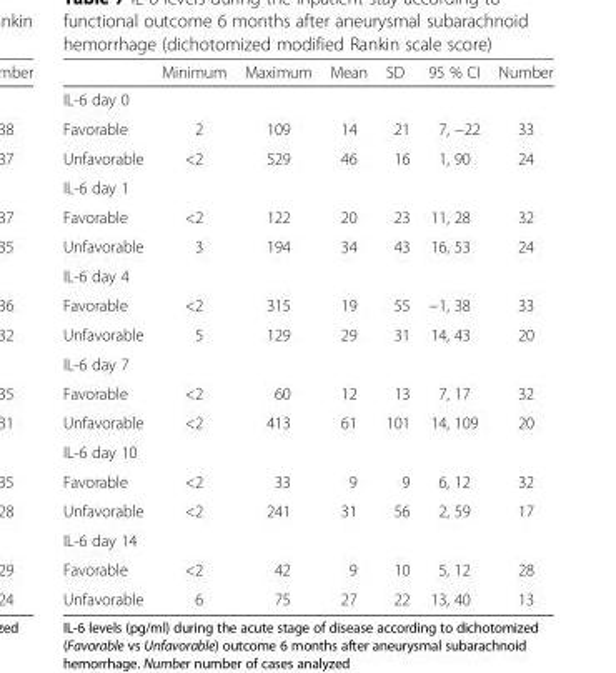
<table><thead><tr><td></td><td>Minimum</td><td>Maximum</td><td>Mean</td><td>SD</td><td>95 % CI</td><td>Number</td></tr></thead><tbody><tr><td colspan="7">IL-6 day 0</td></tr><tr><td>Favorable</td><td>2</td><td>109</td><td>14</td><td>21</td><td>7, −22</td><td>33</td></tr><tr><td>Unfavorable</td><td>&lt;2</td><td>529</td><td>46</td><td>16</td><td>1, 90</td><td>24</td></tr><tr><td colspan="7">IL-6 day 1</td></tr><tr><td>Favorable</td><td>&lt;2</td><td>122</td><td>20</td><td>23</td><td>11, 28</td><td>32</td></tr><tr><td>Unfavorable</td><td>3</td><td>194</td><td>34</td><td>43</td><td>16, 53</td><td>24</td></tr><tr><td colspan="7">IL-6 day 4</td></tr><tr><td>Favorable</td><td>&lt;2</td><td>315</td><td>19</td><td>55</td><td>−1, 38</td><td>33</td></tr><tr><td>Unfavorable</td><td>5</td><td>129</td><td>29</td><td>31</td><td>14, 43</td><td>20</td></tr><tr><td colspan="7">IL-6 day 7</td></tr><tr><td>Favorable</td><td>&lt;2</td><td>60</td><td>12</td><td>13</td><td>7, 17</td><td>32</td></tr><tr><td>Unfavorable</td><td>&lt;2</td><td>413</td><td>61</td><td>101</td><td>14, 109</td><td>20</td></tr><tr><td colspan="7">IL-6 day 10</td></tr><tr><td>Favorable</td><td>&lt;2</td><td>33</td><td>9</td><td>9</td><td>6, 12</td><td>32</td></tr><tr><td>Unfavorable</td><td>&lt;2</td><td>241</td><td>31</td><td>56</td><td>2, 59</td><td>17</td></tr><tr><td colspan="7">IL-6 day 14</td></tr><tr><td>Favorable</td><td>&lt;2</td><td>42</td><td>9</td><td>10</td><td>5, 12</td><td>28</td></tr><tr><td>Unfavorable</td><td>6</td><td>75</td><td>27</td><td>22</td><td>13, 40</td><td>13</td></tr></tbody></table>